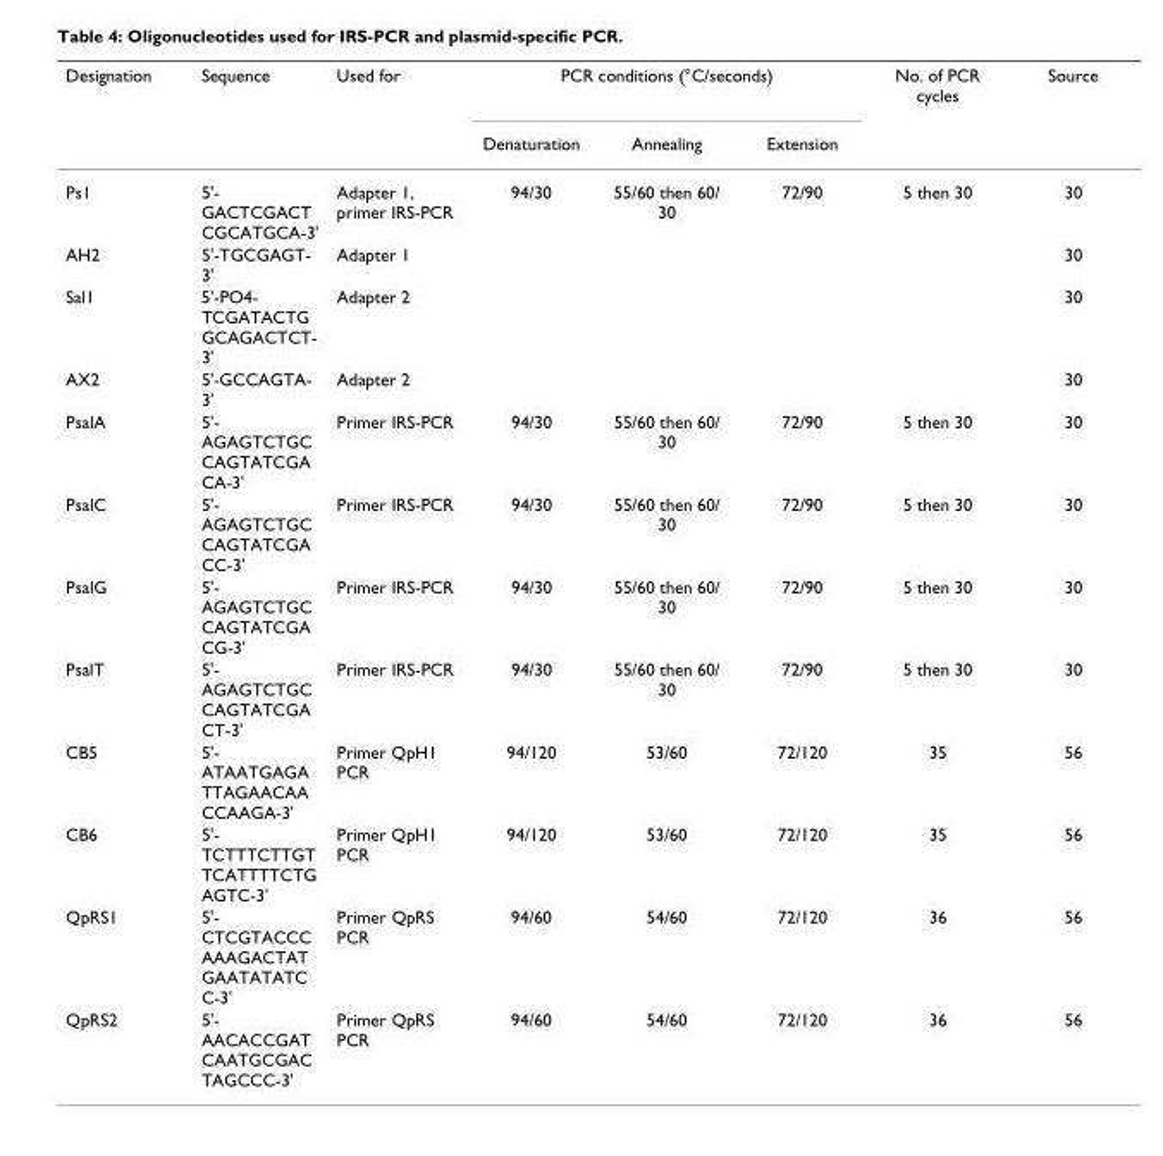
<table><thead><tr><td rowspan="2">Designation</td><td rowspan="2">Sequence</td><td rowspan="2">Used for</td><td colspan="3">PCR conditions (°C/seconds)</td><td rowspan="2">No. of PCR cycles</td><td rowspan="2">Source</td></tr><tr><td>Denaturation</td><td>Annealing</td><td>Extension</td></tr></thead><tbody><tr><td>Ps1</td><td>5&#x27;- GACTCGACT CGCATGCA-3&#x27;</td><td>Adapter 1, primer IRS-PCR</td><td>94/30</td><td>55/60 then 60/ 30</td><td>72/90</td><td>5 then 30</td><td>30</td></tr><tr><td>AH2</td><td>5&#x27;-TGCGAGT- 3&#x27;</td><td>Adapter 1</td><td></td><td></td><td></td><td></td><td>30</td></tr><tr><td>Sal1</td><td>5&#x27;-PO4- TCGATACTG GCAGACTCT- 3&#x27;</td><td>Adapter 2</td><td></td><td></td><td></td><td></td><td>30</td></tr><tr><td>AX2</td><td>5&#x27;-GCCAGTA- 3&#x27;</td><td>Adapter 2</td><td></td><td></td><td></td><td></td><td>30</td></tr><tr><td>PsalA</td><td>5&#x27;- AGAGTCTGC CAGTATCGA CA-3&#x27;</td><td>Primer IRS-PCR</td><td>94/30</td><td>55/60 then 60/ 30</td><td>72/90</td><td>5 then 30</td><td>30</td></tr><tr><td>PsalC</td><td>5&#x27;- AGAGTCTGC CAGTATCGA CC-3&#x27;</td><td>Primer IRS-PCR</td><td>94/30</td><td>55/60 then 60/ 30</td><td>72/90</td><td>5 then 30</td><td>30</td></tr><tr><td>PsalG</td><td>5&#x27;- AGAGTCTGC CAGTATCGA CG-3&#x27;</td><td>Primer IRS-PCR</td><td>94/30</td><td>55/60 then 60/ 30</td><td>72/90</td><td>5 then 30</td><td>30</td></tr><tr><td>PsalT</td><td>5&#x27;- AGAGTCTGC CAGTATCGA CT-3&#x27;</td><td>Primer IRS-PCR</td><td>94/30</td><td>55/60 then 60/ 30</td><td>72/90</td><td>5 then 30</td><td>30</td></tr><tr><td>CB5</td><td>5&#x27;- ATAATGAGA TTAGAACAA CCAAGA-3&#x27;</td><td>Primer QpH1 PCR</td><td>94/120</td><td>53/60</td><td>72/120</td><td>35</td><td>56</td></tr><tr><td>CB6</td><td>5&#x27;- TCTTTCTTGT TCATTTTCTG AGTC-3&#x27;</td><td>Primer QpH1 PCR</td><td>94/120</td><td>53/60</td><td>72/120</td><td>35</td><td>56</td></tr><tr><td>QpRS1</td><td>5&#x27;- CTCGTACCC AAAGACTAT GAATATATC C-3&#x27;</td><td>Primer QpRS PCR</td><td>94/60</td><td>54/60</td><td>72/120</td><td>36</td><td>56</td></tr><tr><td>QpRS2</td><td>5&#x27;- AACACCGAT CAATGCGAC TAGCCC-3&#x27;</td><td>Primer QpRS PCR</td><td>94/60</td><td>54/60</td><td>72/120</td><td>36</td><td>56</td></tr></tbody></table>